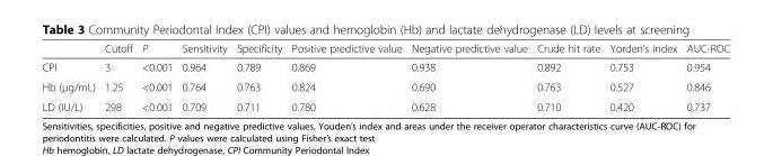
<table><thead><tr><td></td><td>Cutoff</td><td>P</td><td>Sensitivity</td><td>Specificity</td><td>Positive predictive value</td><td>Negative predictive value</td><td>Crude hit rate</td><td>Yorden’s index</td><td>AUC-ROC</td></tr></thead><tbody><tr><td>CPI</td><td>3</td><td>&lt;0.001</td><td>0.964</td><td>0.789</td><td>0.869</td><td>0.938</td><td>0.892</td><td>0.753</td><td>0.954</td></tr><tr><td>Hb (μg/mL)</td><td>1.25</td><td>&lt;0.001</td><td>0.764</td><td>0.763</td><td>0.824</td><td>0.690</td><td>0.763</td><td>0.527</td><td>0.846</td></tr><tr><td>LD (IU/L)</td><td>298</td><td>&lt;0.001</td><td>0.709</td><td>0.711</td><td>0.780</td><td>0.628</td><td>0.710</td><td>0.420</td><td>0.737</td></tr></tbody></table>